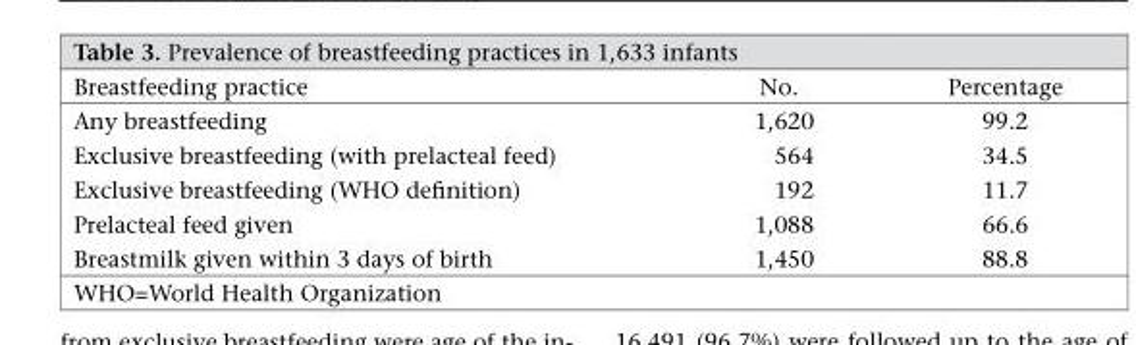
<table><thead><tr><td>Breastfeeding practice</td><td>No.</td><td>Percentage</td></tr></thead><tbody><tr><td>Any breastfeeding</td><td>1,620</td><td>99.2</td></tr><tr><td>Exclusive breastfeeding (with prelacteal feed)</td><td>564</td><td>34.5</td></tr><tr><td>Exclusive breastfeeding (WHO definition)</td><td>192</td><td>11.7</td></tr><tr><td>Prelacteal feed given</td><td>1,088</td><td>66.6</td></tr><tr><td>Breastmilk given within 3 days of birth</td><td>1,450</td><td>88.8</td></tr></tbody></table>